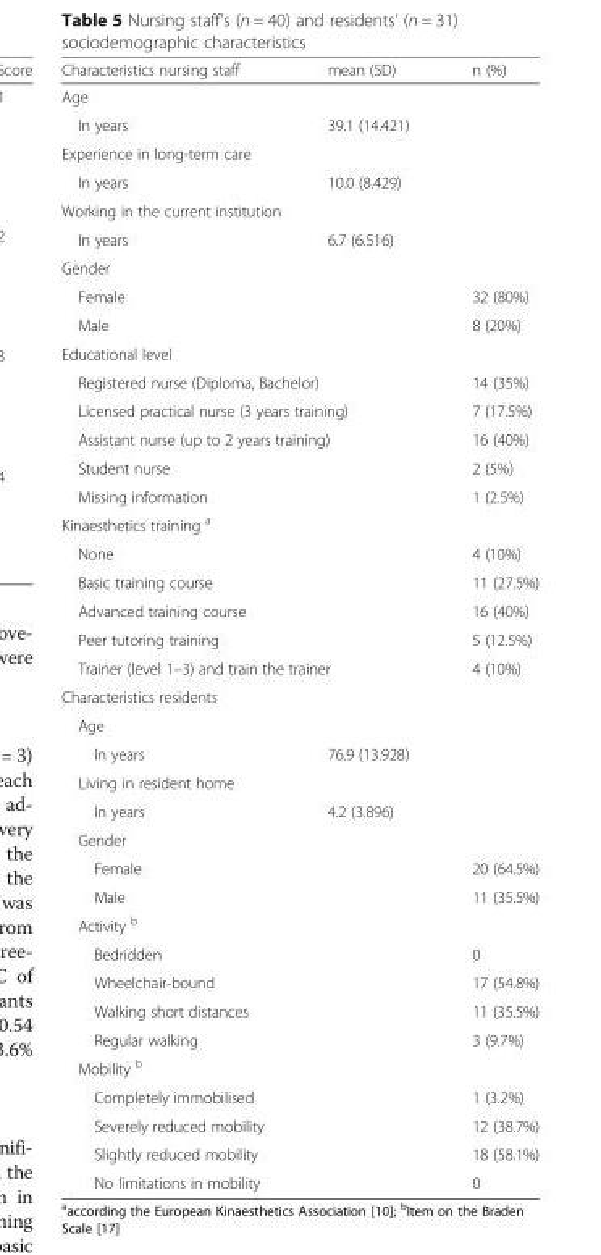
<table><thead><tr><td>Characteristics nursing staff</td><td>mean (SD)</td><td>n (%)</td></tr></thead><tbody><tr><td colspan="3">Age</td></tr><tr><td>In years</td><td>39.1 (14.421)</td><td></td></tr><tr><td colspan="3">Experience in long-term care</td></tr><tr><td>In years</td><td>10.0 (8.429)</td><td></td></tr><tr><td colspan="3">Working in the current institution</td></tr><tr><td>In years</td><td>6.7 (6.516)</td><td></td></tr><tr><td colspan="3">Gender</td></tr><tr><td>Female</td><td></td><td>32 (80%)</td></tr><tr><td>Male</td><td></td><td>8 (20%)</td></tr><tr><td colspan="3">Educational level</td></tr><tr><td colspan="2">Registered nurse (Diploma, Bachelor)</td><td>14 (35%)</td></tr><tr><td colspan="2">Licensed practical nurse (3 years training)</td><td>7 (17.5%)</td></tr><tr><td colspan="2">Assistant nurse (up to 2 years training)</td><td>16 (40%)</td></tr><tr><td>Student nurse</td><td></td><td>2 (5%)</td></tr><tr><td>Missing information</td><td></td><td>1 (2.5%)</td></tr><tr><td colspan="3">Kinaesthetics training <sup>a</sup></td></tr><tr><td>None</td><td></td><td>4 (10%)</td></tr><tr><td>Basic training course</td><td></td><td>11 (27.5%)</td></tr><tr><td>Advanced training course</td><td></td><td>16 (40%)</td></tr><tr><td>Peer tutoring training</td><td></td><td>5 (12.5%)</td></tr><tr><td colspan="2">Trainer (level 1–3) and train the trainer</td><td>4 (10%)</td></tr><tr><td colspan="3">Characteristics residents</td></tr><tr><td colspan="3">Age</td></tr><tr><td>In years</td><td>76.9 (13.928)</td><td></td></tr><tr><td colspan="3">Living in resident home</td></tr><tr><td>In years</td><td>4.2 (3.896)</td><td></td></tr><tr><td colspan="3">Gender</td></tr><tr><td>Female</td><td></td><td>20 (64.5%)</td></tr><tr><td>Male</td><td></td><td>11 (35.5%)</td></tr><tr><td colspan="3">Activity <sup>b</sup></td></tr><tr><td>Bedridden</td><td></td><td>0</td></tr><tr><td>Wheelchair-bound</td><td></td><td>17 (54.8%)</td></tr><tr><td>Walking short distances</td><td></td><td>11 (35.5%)</td></tr><tr><td>Regular walking</td><td></td><td>3 (9.7%)</td></tr><tr><td colspan="3">Mobility <sup>b</sup></td></tr><tr><td>Completely immobilised</td><td></td><td>1 (3.2%)</td></tr><tr><td>Severely reduced mobility</td><td></td><td>12 (38.7%)</td></tr><tr><td>Slightly reduced mobility</td><td></td><td>18 (58.1%)</td></tr><tr><td>No limitations in mobility</td><td></td><td>0</td></tr></tbody></table>